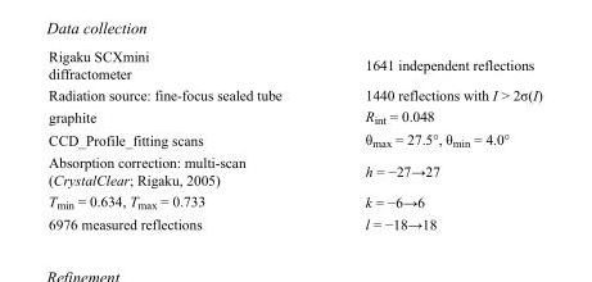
<table><tbody><tr><td>Rigaku SCXmini diffractometer</td><td>1641 independent reflections</td></tr><tr><td>Radiation source: fine-focus sealed tube</td><td>1440 reflections with I &gt; 2σ(I)</td></tr><tr><td>graphite</td><td>R<sub>int</sub> = 0.048</td></tr><tr><td>CCD_Profile_fitting scans</td><td>θ<sub>max</sub> = 27.5°, θ<sub>min</sub> = 4.0°</td></tr><tr><td>Absorption correction: multi-scan (CrystalClear; Rigaku, 2005)</td><td>h = −27→27</td></tr><tr><td>T<sub>min</sub> = 0.634, T<sub>max</sub> = 0.733</td><td>k = −6→6</td></tr><tr><td>6976 measured reflections</td><td>l = −18→18</td></tr></tbody></table>